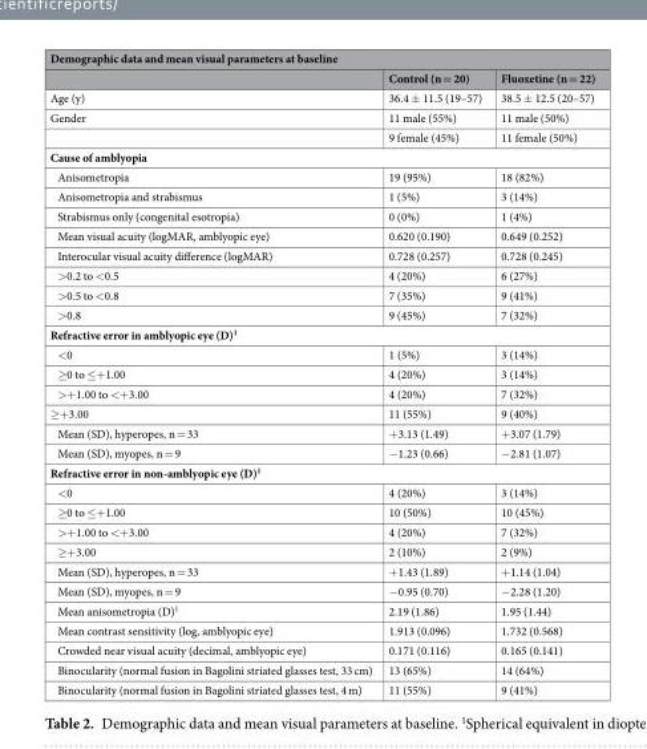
<table><thead><tr><td colspan="3">Demographic data and mean visual parameters at baseline</td></tr><tr><td></td><td>Control (n = 20)</td><td>Fluoxetine (n = 22)</td></tr></thead><tbody><tr><td>Age (y)</td><td>36.4 ± 11.5 (19–57)</td><td>38.5 ± 12.5 (20–57)</td></tr><tr><td rowspan="2">Gender</td><td>11 male (55%)</td><td>11 male (50%)</td></tr><tr><td>9 female (45%)</td><td>11 female (50%)</td></tr><tr><td colspan="3">Cause of amblyopia</td></tr><tr><td>Anisometropia</td><td>19 (95%)</td><td>18 (82%)</td></tr><tr><td>Anisometropia and strabismus</td><td>1 (5%)</td><td>3 (14%)</td></tr><tr><td>Strabismus only (congenital esotropia)</td><td>0 (0%)</td><td>1 (4%)</td></tr><tr><td>Mean visual acuity (logMAR, amblyopic eye)</td><td>0.620 (0.190)</td><td>0.649 (0.252)</td></tr><tr><td>Interocular visual acuity difference (logMAR)</td><td>0.728 (0.257)</td><td>0.728 (0.245)</td></tr><tr><td>&gt;0.2 to &lt;0.5</td><td>4 (20%)</td><td>6 (27%)</td></tr><tr><td>&gt;0.5 to &lt;0.8</td><td>7 (35%)</td><td>9 (41%)</td></tr><tr><td>&gt;0.8</td><td>9 (45%)</td><td>7 (32%)</td></tr><tr><td colspan="3">Refractive error in amblyopic eye (D)<sup>1</sup></td></tr><tr><td>&lt;0</td><td>1 (5%)</td><td>3 (14%)</td></tr><tr><td>≥0 to ≤+1.00</td><td>4 (20%)</td><td>3 (14%)</td></tr><tr><td>&gt;+1.00 to &lt;+3.00</td><td>4 (20%)</td><td>7 (32%)</td></tr><tr><td>≥+3.00</td><td>11 (55%)</td><td>9 (40%)</td></tr><tr><td>Mean (SD), hyperopes, n = 33</td><td>+3.13 (1.49)</td><td>+3.07 (1.79)</td></tr><tr><td>Mean (SD), myopes, n = 9</td><td>−1.23 (0.66)</td><td>−2.81 (1.07)</td></tr><tr><td colspan="3">Refractive error in non-amblyopic eye (D)<sup>1</sup></td></tr><tr><td>&lt;0</td><td>4 (20%)</td><td>3 (14%)</td></tr><tr><td>≥0 to ≤+1.00</td><td>10 (50%)</td><td>10 (45%)</td></tr><tr><td>&gt;+1.00 to &lt;+3.00</td><td>4 (20%)</td><td>7 (32%)</td></tr><tr><td>≥+3.00</td><td>2 (10%)</td><td>2 (9%)</td></tr><tr><td>Mean (SD), hyperopes, n = 33</td><td>+1.43 (1.89)</td><td>+1.14 (1.04)</td></tr><tr><td>Mean (SD), myopes, n = 9</td><td>−0.95 (0.70)</td><td>−2.28 (1.20)</td></tr><tr><td>Mean anisometropia (D)<sup>1</sup></td><td>2.19 (1.86)</td><td>1.95 (1.44)</td></tr><tr><td>Mean contrast sensitivity (log, amblyopic eye)</td><td>1.913 (0.096)</td><td>1.732 (0.568)</td></tr><tr><td>Crowded near visual acuity (decimal, amblyopic eye)</td><td>0.171 (0.116)</td><td>0.165 (0.141)</td></tr><tr><td>Binocularity (normal fusion in Bagolini striated glasses test, 33 cm)</td><td>13 (65%)</td><td>14 (64%)</td></tr><tr><td>Binocularity (normal fusion in Bagolini striated glasses test, 4 m)</td><td>11 (55%)</td><td>9 (41%)</td></tr></tbody></table>